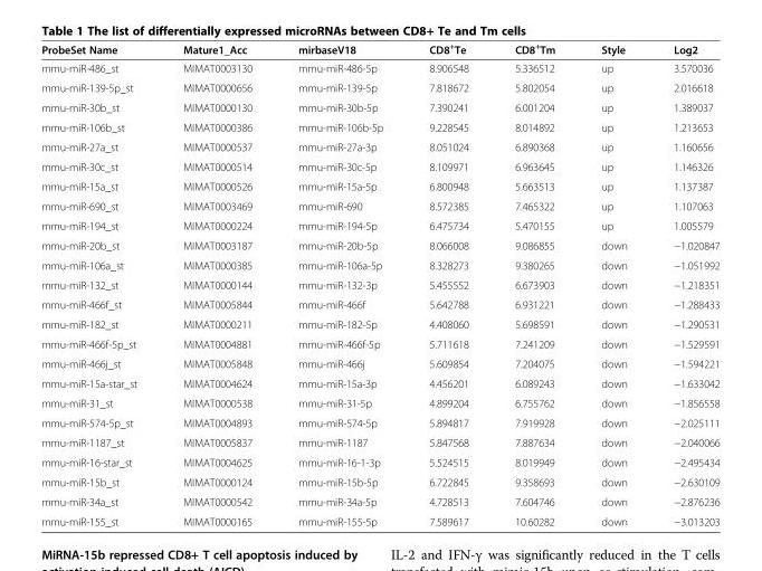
<table><thead><tr><td>ProbeSet Name</td><td>Mature1_Acc</td><td>mirbaseV18</td><td>CD8<sup>+</sup>Te</td><td>CD8<sup>+</sup>Tm</td><td>Style</td><td>Log2</td></tr></thead><tbody><tr><td>mmu-miR-486_st</td><td>MIMAT0003130</td><td>mmu-miR-486-5p</td><td>8.906548</td><td>5.336512</td><td>up</td><td>3.570036</td></tr><tr><td>mmu-miR-139-5p_st</td><td>MIMAT0000656</td><td>mmu-miR-139-5p</td><td>7.818672</td><td>5.802054</td><td>up</td><td>2.016618</td></tr><tr><td>mmu-miR-30b_st</td><td>MIMAT0000130</td><td>mmu-miR-30b-5p</td><td>7.390241</td><td>6.001204</td><td>up</td><td>1.389037</td></tr><tr><td>mmu-miR-106b_st</td><td>MIMAT0000386</td><td>mmu-miR-106b-5p</td><td>9.228545</td><td>8.014892</td><td>up</td><td>1.213653</td></tr><tr><td>mmu-miR-27a_st</td><td>MIMAT0000537</td><td>mmu-miR-27a-3p</td><td>8.051024</td><td>6.890368</td><td>up</td><td>1.160656</td></tr><tr><td>mmu-miR-30c_st</td><td>MIMAT0000514</td><td>mmu-miR-30c-5p</td><td>8.109971</td><td>6.963645</td><td>up</td><td>1.146326</td></tr><tr><td>mmu-miR-15a_st</td><td>MIMAT0000526</td><td>mmu-miR-15a-5p</td><td>6.800948</td><td>5.663513</td><td>up</td><td>1.137387</td></tr><tr><td>mmu-miR-690_st</td><td>MIMAT0003469</td><td>mmu-miR-690</td><td>8.572385</td><td>7.465322</td><td>up</td><td>1.107063</td></tr><tr><td>mmu-miR-194_st</td><td>MIMAT0000224</td><td>mmu-miR-194-5p</td><td>6.475734</td><td>5.470155</td><td>up</td><td>1.005579</td></tr><tr><td>mmu-miR-20b_st</td><td>MIMAT0003187</td><td>mmu-miR-20b-5p</td><td>8.066008</td><td>9.086855</td><td>down</td><td>−1.020847</td></tr><tr><td>mmu-miR-106a_st</td><td>MIMAT0000385</td><td>mmu-miR-106a-5p</td><td>8.328273</td><td>9.380265</td><td>down</td><td>−1.051992</td></tr><tr><td>mmu-miR-132_st</td><td>MIMAT0000144</td><td>mmu-miR-132-3p</td><td>5.455552</td><td>6.673903</td><td>down</td><td>−1.218351</td></tr><tr><td>mmu-miR-466f_st</td><td>MIMAT0005844</td><td>mmu-miR-466f</td><td>5.642788</td><td>6.931221</td><td>down</td><td>−1.288433</td></tr><tr><td>mmu-miR-182_st</td><td>MIMAT0000211</td><td>mmu-miR-182-5p</td><td>4.408060</td><td>5.698591</td><td>down</td><td>−1.290531</td></tr><tr><td>mmu-miR-466f-5p_st</td><td>MIMAT0004881</td><td>mmu-miR-466f-5p</td><td>5.711618</td><td>7.241209</td><td>down</td><td>−1.529591</td></tr><tr><td>mmu-miR-466j_st</td><td>MIMAT0005848</td><td>mmu-miR-466j</td><td>5.609854</td><td>7.204075</td><td>down</td><td>−1.594221</td></tr><tr><td>mmu-miR-15a-star_st</td><td>MIMAT0004624</td><td>mmu-miR-15a-3p</td><td>4.456201</td><td>6.089243</td><td>down</td><td>−1.633042</td></tr><tr><td>mmu-miR-31_st</td><td>MIMAT0000538</td><td>mmu-miR-31-5p</td><td>4.899204</td><td>6.755762</td><td>down</td><td>−1.856558</td></tr><tr><td>mmu-miR-574-5p_st</td><td>MIMAT0004893</td><td>mmu-miR-574-5p</td><td>5.894817</td><td>7.919928</td><td>down</td><td>−2.025111</td></tr><tr><td>mmu-miR-1187_st</td><td>MIMAT0005837</td><td>mmu-miR-1187</td><td>5.847568</td><td>7.887634</td><td>down</td><td>−2.040066</td></tr><tr><td>mmu-miR-16-star_st</td><td>MIMAT0004625</td><td>mmu-miR-16-1-3p</td><td>5.524515</td><td>8.019949</td><td>down</td><td>−2.495434</td></tr><tr><td>mmu-miR-15b_st</td><td>MIMAT0000124</td><td>mmu-miR-15b-5p</td><td>6.722845</td><td>9.358693</td><td>down</td><td>−2.630109</td></tr><tr><td>mmu-miR-34a_st</td><td>MIMAT0000542</td><td>mmu-miR-34a-5p</td><td>4.728513</td><td>7.604746</td><td>down</td><td>−2.876236</td></tr><tr><td>mmu-miR-155_st</td><td>MIMAT0000165</td><td>mmu-miR-155-5p</td><td>7.589617</td><td>10.60282</td><td>down</td><td>−3.013203</td></tr></tbody></table>